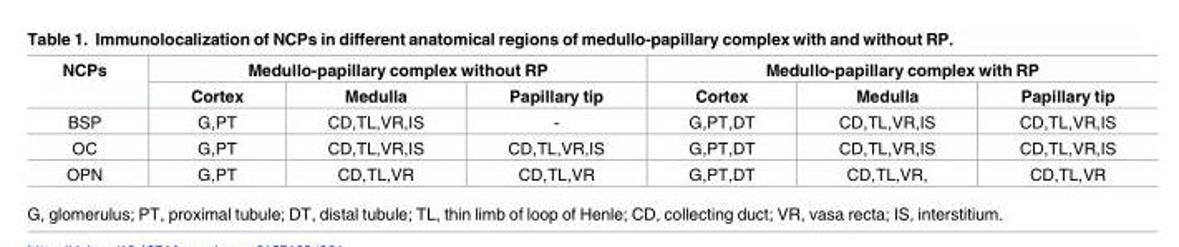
<table><thead><tr><td rowspan="2">NCPs</td><td colspan="3">Medullo-papillary complex without RP</td><td colspan="3">Medullo-papillary complex with RP</td></tr><tr><td>Cortex</td><td>Medulla</td><td>Papillary tip</td><td>Cortex</td><td>Medulla</td><td>Papillary tip</td></tr></thead><tbody><tr><td>BSP</td><td>G,PT</td><td>CD,TL,VR,IS</td><td>-</td><td>G,PT,DT</td><td>CD,TL,VR,IS</td><td>CD,TL,VR,IS</td></tr><tr><td>OC</td><td>G,PT</td><td>CD,TL,VR,IS</td><td>CD,TL,VR,IS</td><td>G,PT,DT</td><td>CD,TL,VR,IS</td><td>CD,TL,VR,IS</td></tr><tr><td>OPN</td><td>G,PT</td><td>CD,TL,VR</td><td>CD,TL,VR</td><td>G,PT,DT</td><td>CD,TL,VR,</td><td>CD,TL,VR</td></tr></tbody></table>